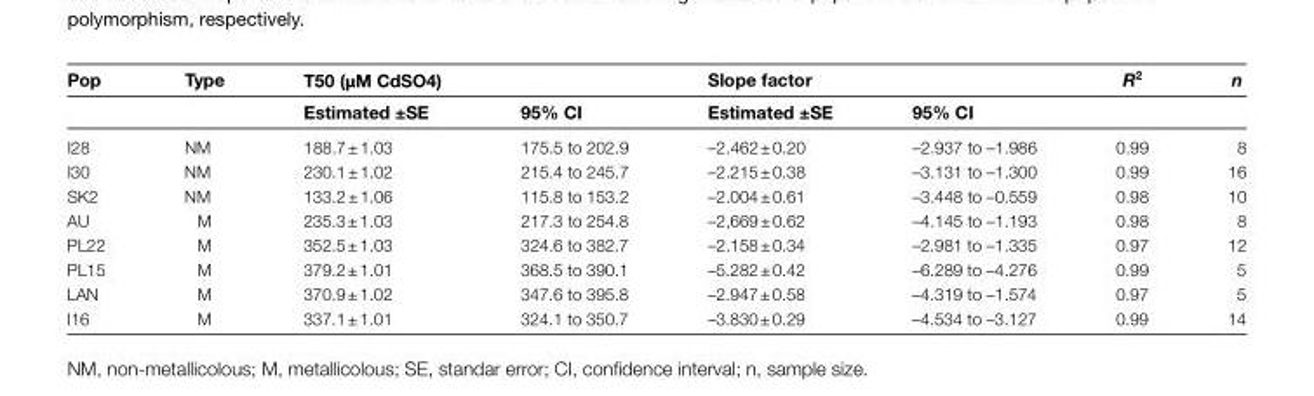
<table><thead><tr><td rowspan="2">Pop</td><td rowspan="2">Type</td><td rowspan="2">T50 (μM CdSO4) Estimated ±SE</td><td rowspan="2">95% CI</td><td rowspan="2">Slope factor Estimated ±SE</td><td rowspan="2">95% CI</td><td rowspan="2">R<sup>2</sup></td><td rowspan="2">n</td></tr><tr></tr></thead><tbody><tr><td>I28</td><td>NM</td><td>188.7 ± 1.03</td><td>175.5 to 202.9</td><td>–2.462 ± 0.20</td><td>–2.937 to –1.986</td><td>0.99</td><td>8</td></tr><tr><td>I30</td><td>NM</td><td>230.1 ± 1.02</td><td>215.4 to 245.7</td><td>–2.215 ± 0.38</td><td>–3.131 to –1.300</td><td>0.99</td><td>16</td></tr><tr><td>SK2</td><td>NM</td><td>133.2 ± 1.06</td><td>115.8 to 153.2</td><td>–2.004 ± 0.61</td><td>–3.448 to –0.559</td><td>0.98</td><td>10</td></tr><tr><td>AU</td><td>M</td><td>235.3 ± 1.03</td><td>217.3 to 254.8</td><td>–2,669 ± 0.62</td><td>–4.145 to –1.193</td><td>0.98</td><td>8</td></tr><tr><td>PL22</td><td>M</td><td>352.5 ± 1.03</td><td>324.6 to 382.7</td><td>–2.158 ± 0.34</td><td>–2.981 to –1.335</td><td>0.97</td><td>12</td></tr><tr><td>PL15</td><td>M</td><td>379.2 ± 1.01</td><td>368.5 to 390.1</td><td>–5.282 ± 0.42</td><td>–6.289 to –4.276</td><td>0.99</td><td>5</td></tr><tr><td>LAN</td><td>M</td><td>370.9 ± 1.02</td><td>347.6 to 395.8</td><td>–2.947 ± 0.58</td><td>–4.319 to –1.574</td><td>0.97</td><td>5</td></tr><tr><td>I16</td><td>M</td><td>337.1 ± 1.01</td><td>324.1 to 350.7</td><td>–3.830 ± 0.29</td><td>–4.534 to –3.127</td><td>0.99</td><td>14</td></tr></tbody></table>